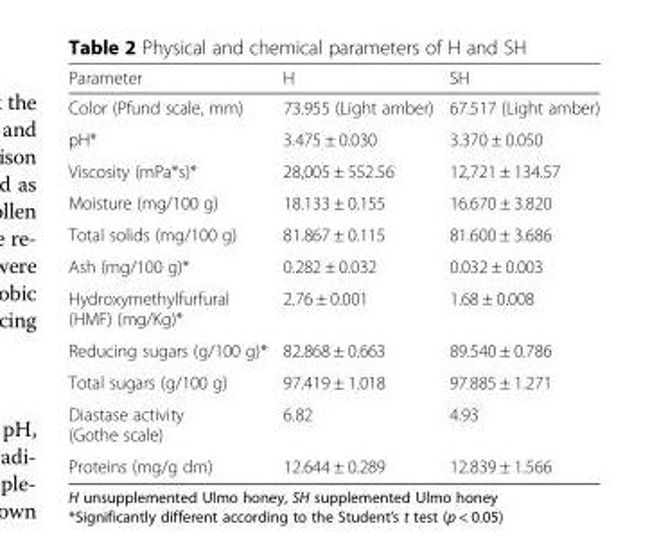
<table><thead><tr><td>Parameter</td><td>H</td><td>SH</td></tr></thead><tbody><tr><td>Color (Pfund scale, mm)</td><td>73.955 (Light amber)</td><td>67.517 (Light amber)</td></tr><tr><td>pH*</td><td>3.475 ± 0.030</td><td>3.370 ± 0.050</td></tr><tr><td>Viscosity (mPa*s)*</td><td>28,005 ± 552.56</td><td>12,721 ± 134.57</td></tr><tr><td>Moisture (mg/100 g)</td><td>18.133 ± 0.155</td><td>16.670 ± 3.820</td></tr><tr><td>Total solids (mg/100 g)</td><td>81.867 ± 0.115</td><td>81.600 ± 3.686</td></tr><tr><td>Ash (mg/100 g)*</td><td>0.282 ± 0.032</td><td>0.032 ± 0.003</td></tr><tr><td>Hydroxymethylfurfural (HMF) (mg/Kg)*</td><td>2.76 ± 0.001</td><td>1.68 ± 0.008</td></tr><tr><td>Reducing sugars (g/100 g)*</td><td>82.868 ± 0.663</td><td>89.540 ± 0.786</td></tr><tr><td>Total sugars (g/100 g)</td><td>97.419 ± 1.018</td><td>97.885 ± 1.271</td></tr><tr><td>Diastase activity (Gothe scale)</td><td>6.82</td><td>4.93</td></tr><tr><td>Proteins (mg/g dm)</td><td>12.644 ± 0.289</td><td>12.839 ± 1.566</td></tr></tbody></table>